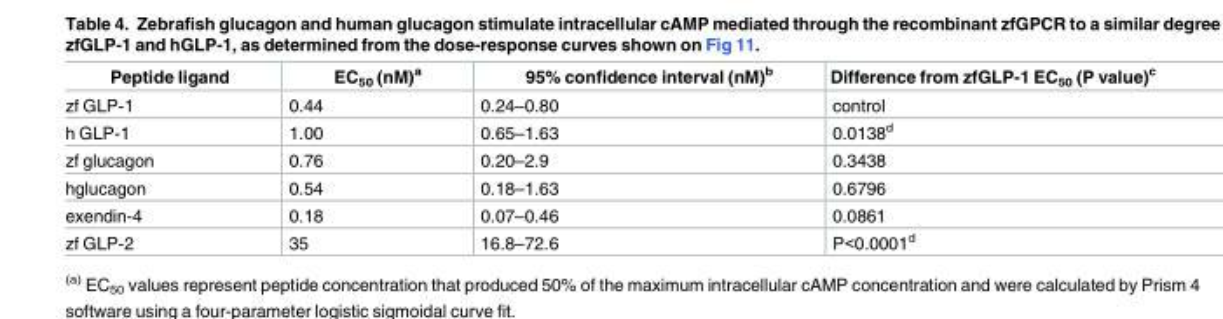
<table><thead><tr><td>Peptide ligand</td><td>EC<sub>50</sub> (nM)<sup>a</sup></td><td>95% confidence interval (nM)<sup>b</sup></td><td>Difference from zfGLP-1 EC<sub>50</sub> (P value)<sup>c</sup></td></tr></thead><tbody><tr><td>zf GLP-1</td><td>0.44</td><td>0.24–0.80</td><td>control</td></tr><tr><td>h GLP-1</td><td>1.00</td><td>0.65–1.63</td><td>0.0138<sup>d</sup></td></tr><tr><td>zf glucagon</td><td>0.76</td><td>0.20–2.9</td><td>0.3438</td></tr><tr><td>hglucagon</td><td>0.54</td><td>0.18–1.63</td><td>0.6796</td></tr><tr><td>exendin-4</td><td>0.18</td><td>0.07–0.46</td><td>0.0861</td></tr><tr><td>zf GLP-2</td><td>35</td><td>16.8–72.6</td><td>P&lt;0.0001<sup>d</sup></td></tr></tbody></table>